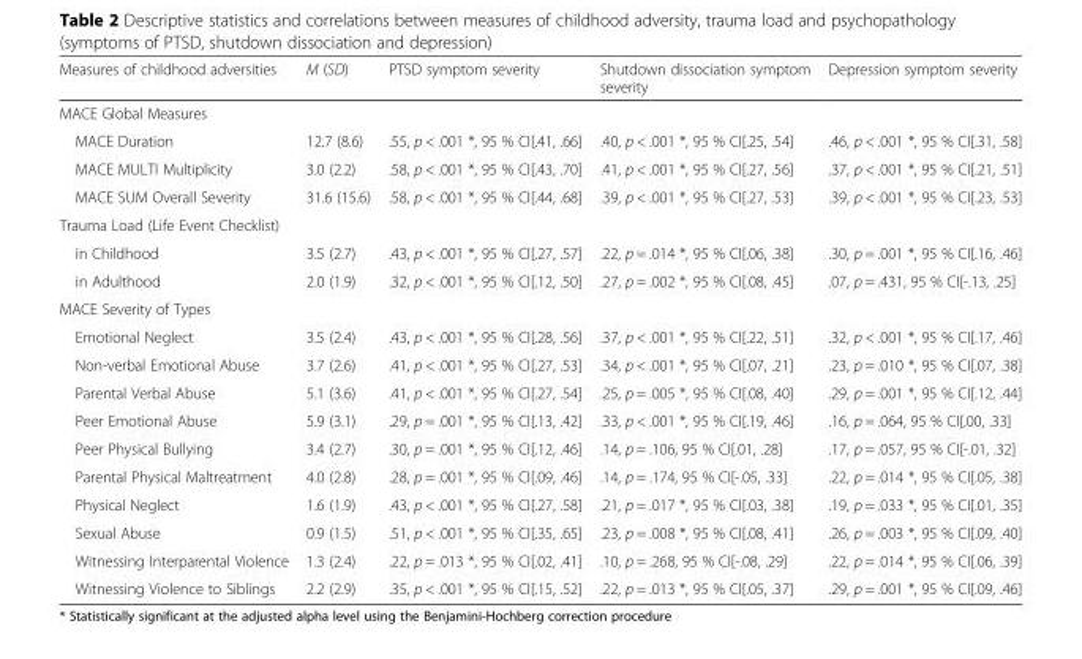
<table><thead><tr><td>Measures of childhood adversities</td><td>M (SD)</td><td>PTSD symptom severity</td><td>Shutdown dissociation symptom severity</td><td>Depression symptom severity</td></tr></thead><tbody><tr><td colspan="5">MACE Global Measures</td></tr><tr><td>MACE Duration</td><td>12.7 (8.6)</td><td>.55, p &lt; .001 *, 95 % CI[.41, .66]</td><td>.40, p &lt; .001 *, 95 % CI[.25, .54]</td><td>.46, p &lt; .001 *, 95 % CI[.31, .58]</td></tr><tr><td>MACE MULTI Multiplicity</td><td>3.0 (2.2)</td><td>.58, p &lt; .001 *, 95 % CI[.43, .70]</td><td>.41, p &lt; .001 *, 95 % CI[.27, .56]</td><td>.37, p &lt; .001 *, 95 % CI[.21, .51]</td></tr><tr><td>MACE SUM Overall Severity</td><td>31.6 (15.6)</td><td>.58, p &lt; .001 *, 95 % CI[.44, .68]</td><td>.39, p &lt; .001 *, 95 % CI[.27, .53]</td><td>.39, p &lt; .001 *, 95 % CI[.23, .53]</td></tr><tr><td colspan="5">Trauma Load (Life Event Checklist)</td></tr><tr><td>in Childhood</td><td>3.5 (2.7)</td><td>.43, p &lt; .001 *, 95 % CI[.27, .57]</td><td>.22, p = .014 *, 95 % CI[.06, .38]</td><td>.30, p = .001 *, 95 % CI[.16, .46]</td></tr><tr><td>in Adulthood</td><td>2.0 (1.9)</td><td>.32, p &lt; .001 *, 95 % CI[.12, .50]</td><td>.27, p = .002 *, 95 % CI[.08, .45]</td><td>.07, p = .431, 95 % CI[-.13, .25]</td></tr><tr><td colspan="5">MACE Severity of Types</td></tr><tr><td>Emotional Neglect</td><td>3.5 (2.4)</td><td>.43, p &lt; .001 *, 95 % CI[.28, .56]</td><td>.37, p &lt; .001 *, 95 % CI[.22, .51]</td><td>.32, p &lt; .001 *, 95 % CI[.17, .46]</td></tr><tr><td>Non-verbal Emotional Abuse</td><td>3.7 (2.6)</td><td>.41, p &lt; .001 *, 95 % CI[.27, .53]</td><td>.34, p &lt; .001 *, 95 % CI[.07, .21]</td><td>.23, p = .010 *, 95 % CI[.07, .38]</td></tr><tr><td>Parental Verbal Abuse</td><td>5.1 (3.6)</td><td>.41, p &lt; .001 *, 95 % CI[.27, .54]</td><td>.25, p = .005 *, 95 % CI[.08, .40]</td><td>.29, p = .001 *, 95 % CI[.12, .44]</td></tr><tr><td>Peer Emotional Abuse</td><td>5.9 (3.1)</td><td>.29, p = .001 *, 95 % CI[.13, .42]</td><td>.33, p &lt; .001 *, 95 % CI[.19, .46]</td><td>.16, p = .064, 95 % CI[.00, .33]</td></tr><tr><td>Peer Physical Bullying</td><td>3.4 (2.7)</td><td>.30, p = .001 *, 95 % CI[.12, .46]</td><td>.14, p = .106, 95 % CI[.01, .28]</td><td>.17, p = .057, 95 % CI[-.01, .32]</td></tr><tr><td>Parental Physical Maltreatment</td><td>4.0 (2.8)</td><td>.28, p = .001 *, 95 % CI[.09, .46]</td><td>.14, p = .174, 95 % CI[-.05, .33]</td><td>.22, p = .014 *, 95 % CI[.05, .38]</td></tr><tr><td>Physical Neglect</td><td>1.6 (1.9)</td><td>.43, p &lt; .001 *, 95 % CI[.27, .58]</td><td>.21, p = .017 *, 95 % CI[.03, .38]</td><td>.19, p = .033 *, 95 % CI[.01, .35]</td></tr><tr><td>Sexual Abuse</td><td>0.9 (1.5)</td><td>.51, p &lt; .001 *, 95 % CI[.35, .65]</td><td>.23, p = .008 *, 95 % CI[.08, .41]</td><td>.26, p = .003 *, 95 % CI[.09, .40]</td></tr><tr><td>Witnessing Interparental Violence</td><td>1.3 (2.4)</td><td>.22, p = .013 *, 95 % CI[.02, .41]</td><td>.10, p = .268, 95 % CI[-.08, .29]</td><td>.22, p = .014 *, 95 % CI[.06, .39]</td></tr><tr><td>Witnessing Violence to Siblings</td><td>2.2 (2.9)</td><td>.35, p &lt; .001 *, 95 % CI[.15, .52]</td><td>.22, p = .013 *, 95 % CI[.05, .37]</td><td>.29, p = .001 *, 95 % CI[.09, .46]</td></tr></tbody></table>